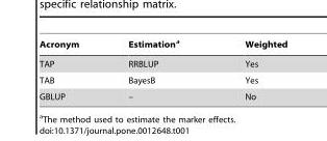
<table><thead><tr><td>Acronym</td><td>Estimation<sup>a</sup></td><td>Weighted</td></tr></thead><tbody><tr><td>TAP</td><td>RRBLUP</td><td>Yes</td></tr><tr><td>TAB</td><td>BayesB</td><td>Yes</td></tr><tr><td>GBLUP</td><td>–</td><td>No</td></tr></tbody></table>